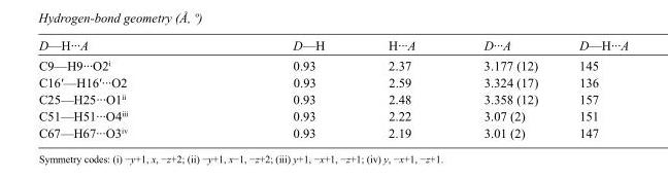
<table><tbody><tr><td>D—H···A</td><td>D—H</td><td>H···A</td><td>D···A</td><td>D—H···A</td></tr><tr><td>C9—H9···O2<sup>i</sup></td><td>0.93</td><td>2.37</td><td>3.177 (12)</td><td>145</td></tr><tr><td>C16′—H16′···O2</td><td>0.93</td><td>2.59</td><td>3.324 (17)</td><td>136</td></tr><tr><td>C25—H25···O1<sup>ii</sup></td><td>0.93</td><td>2.48</td><td>3.358 (12)</td><td>157</td></tr><tr><td>C51—H51···O4<sup>iii</sup></td><td>0.93</td><td>2.22</td><td>3.07 (2)</td><td>151</td></tr><tr><td>C67—H67···O3<sup>iv</sup></td><td>0.93</td><td>2.19</td><td>3.01 (2)</td><td>147</td></tr></tbody></table>